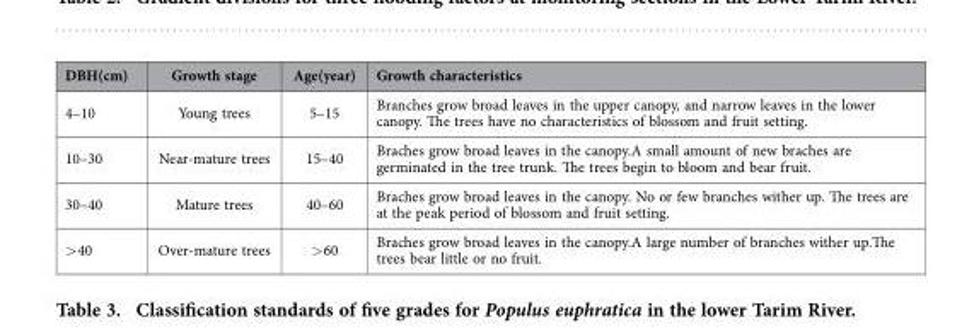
<table><thead><tr><td>DBH(cm)</td><td>Growth stage</td><td>Age(year)</td><td>Growth characteristics</td></tr></thead><tbody><tr><td>4–10</td><td>Young trees</td><td>5–15</td><td>Branches grow broad leaves in the upper canopy, and narrow leaves in the lower canopy. The trees have no characteristics of blossom and fruit setting.</td></tr><tr><td>10–30</td><td>Near-mature trees</td><td>15–40</td><td>Braches grow broad leaves in the canopy.A small amount of new braches are germinated in the tree trunk. The trees begin to bloom and bear fruit.</td></tr><tr><td>30–40</td><td>Mature trees</td><td>40–60</td><td>Braches grow broad leaves in the canopy. No or few branches wither up. The trees are at the peak period of blossom and fruit setting.</td></tr><tr><td>&gt; 40</td><td>Over-mature trees</td><td>&gt; 60</td><td>Braches grow broad leaves in the canopy.A large number of branches wither up.The trees bear little or no fruit.</td></tr></tbody></table>